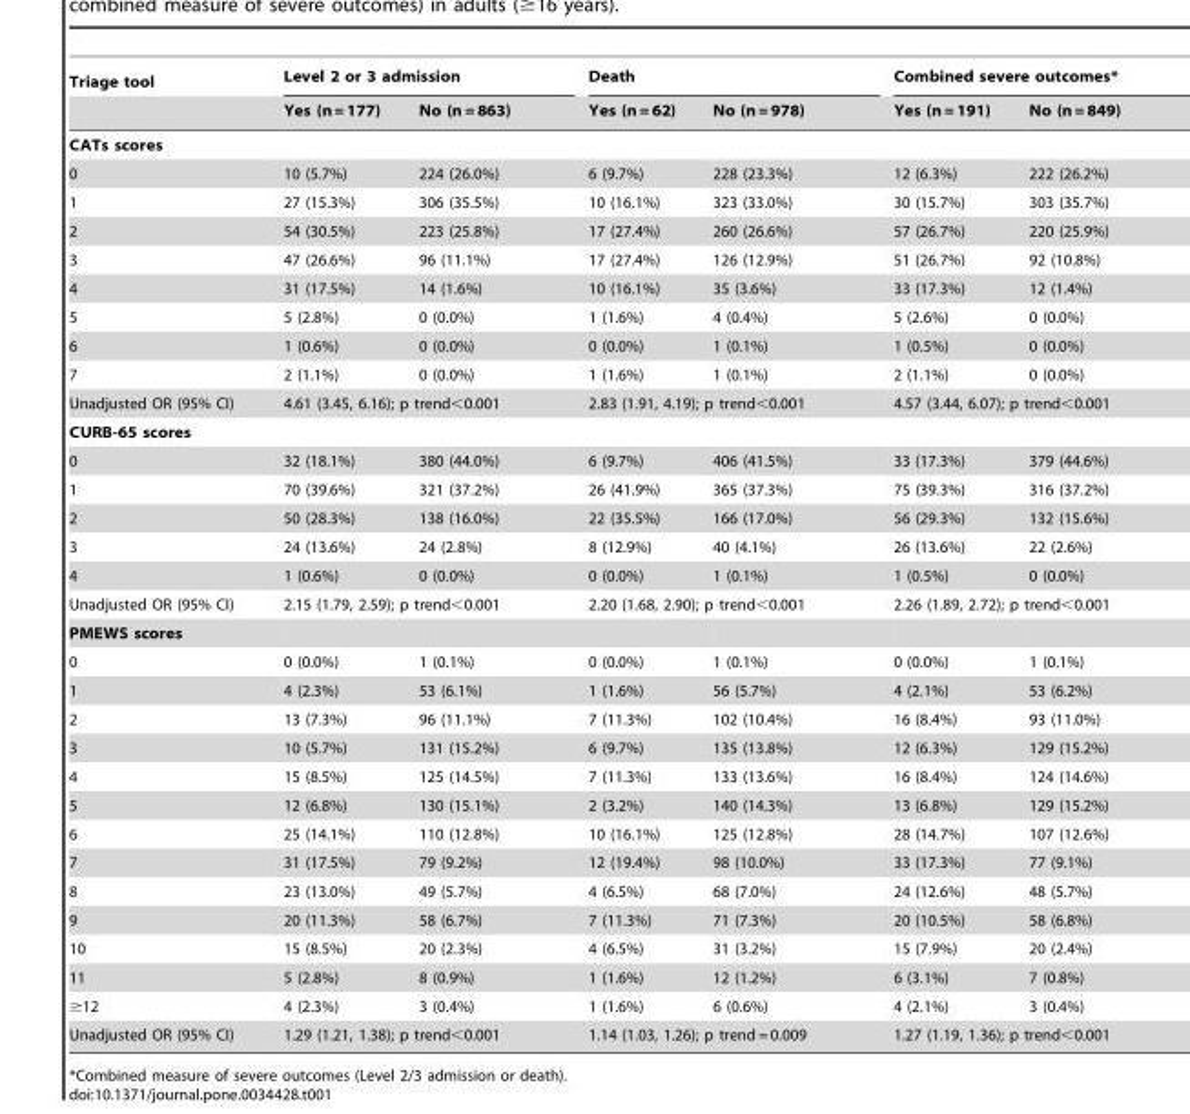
<table><thead><tr><td rowspan="2">Triage tool</td><td colspan="2">Level 2 or 3 admission</td><td colspan="2">Death</td><td colspan="2">Combined severe outcomes*</td></tr><tr><td>Yes (n = 177)</td><td>No (n = 863)</td><td>Yes (n = 62)</td><td>No (n = 978)</td><td>Yes (n = 191)</td><td>No (n = 849)</td></tr></thead><tbody><tr><td colspan="7">CATs scores</td></tr><tr><td>0</td><td>10 (5.7%)</td><td>224 (26.0%)</td><td>6 (9.7%)</td><td>228 (23.3%)</td><td>12 (6.3%)</td><td>222 (26.2%)</td></tr><tr><td>1</td><td>27 (15.3%)</td><td>306 (35.5%)</td><td>10 (16.1%)</td><td>323 (33.0%)</td><td>30 (15.7%)</td><td>303 (35.7%)</td></tr><tr><td>2</td><td>54 (30.5%)</td><td>223 (25.8%)</td><td>17 (27.4%)</td><td>260 (26.6%)</td><td>57 (26.7%)</td><td>220 (25.9%)</td></tr><tr><td>3</td><td>47 (26.6%)</td><td>96 (11.1%)</td><td>17 (27.4%)</td><td>126 (12.9%)</td><td>51 (26.7%)</td><td>92 (10.8%)</td></tr><tr><td>4</td><td>31 (17.5%)</td><td>14 (1.6%)</td><td>10 (16.1%)</td><td>35 (3.6%)</td><td>33 (17.3%)</td><td>12 (1.4%)</td></tr><tr><td>5</td><td>5 (2.8%)</td><td>0 (0.0%)</td><td>1 (1.6%)</td><td>4 (0.4%)</td><td>5 (2.6%)</td><td>0 (0.0%)</td></tr><tr><td>6</td><td>1 (0.6%)</td><td>0 (0.0%)</td><td>0 (0.0%)</td><td>1 (0.1%)</td><td>1 (0.5%)</td><td>0 (0.0%)</td></tr><tr><td>7</td><td>2 (1.1%)</td><td>0 (0.0%)</td><td>1 (1.6%)</td><td>1 (0.1%)</td><td>2 (1.1%)</td><td>0 (0.0%)</td></tr><tr><td>Unadjusted OR (95% CI)</td><td colspan="2">4.61 (3.45, 6.16); p trend&lt;0.001</td><td colspan="2">2.83 (1.91, 4.19); p trend&lt;0.001</td><td colspan="2">4.57 (3.44, 6.07); p trend&lt;0.001</td></tr><tr><td colspan="7">CURB-65 scores</td></tr><tr><td>0</td><td>32 (18.1%)</td><td>380 (44.0%)</td><td>6 (9.7%)</td><td>406 (41.5%)</td><td>33 (17.3%)</td><td>379 (44.6%)</td></tr><tr><td>1</td><td>70 (39.6%)</td><td>321 (37.2%)</td><td>26 (41.9%)</td><td>365 (37.3%)</td><td>75 (39.3%)</td><td>316 (37.2%)</td></tr><tr><td>2</td><td>50 (28.3%)</td><td>138 (16.0%)</td><td>22 (35.5%)</td><td>166 (17.0%)</td><td>56 (29.3%)</td><td>132 (15.6%)</td></tr><tr><td>3</td><td>24 (13.6%)</td><td>24 (2.8%)</td><td>8 (12.9%)</td><td>40 (4.1%)</td><td>26 (13.6%)</td><td>22 (2.6%)</td></tr><tr><td>4</td><td>1 (0.6%)</td><td>0 (0.0%)</td><td>0 (0.0%)</td><td>1 (0.1%)</td><td>1 (0.5%)</td><td>0 (0.0%)</td></tr><tr><td>Unadjusted OR (95% CI)</td><td colspan="2">2.15 (1.79, 2.59); p trend&lt;0.001</td><td colspan="2">2.20 (1.68, 2.90); p trend&lt;0.001</td><td colspan="2">2.26 (1.89, 2.72); p trend&lt;0.001</td></tr><tr><td colspan="7">PMEWS scores</td></tr><tr><td>0</td><td>0 (0.0%)</td><td>1 (0.1%)</td><td>0 (0.0%)</td><td>1 (0.1%)</td><td>0 (0.0%)</td><td>1 (0.1%)</td></tr><tr><td>1</td><td>4 (2.3%)</td><td>53 (6.1%)</td><td>1 (1.6%)</td><td>56 (5.7%)</td><td>4 (2.1%)</td><td>53 (6.2%)</td></tr><tr><td>2</td><td>13 (7.3%)</td><td>96 (11.1%)</td><td>7 (11.3%)</td><td>102 (10.4%)</td><td>16 (8.4%)</td><td>93 (11.0%)</td></tr><tr><td>3</td><td>10 (5.7%)</td><td>131 (15.2%)</td><td>6 (9.7%)</td><td>135 (13.8%)</td><td>12 (6.3%)</td><td>129 (15.2%)</td></tr><tr><td>4</td><td>15 (8.5%)</td><td>125 (14.5%)</td><td>7 (11.3%)</td><td>133 (13.6%)</td><td>16 (8.4%)</td><td>124 (14.6%)</td></tr><tr><td>5</td><td>12 (6.8%)</td><td>130 (15.1%)</td><td>2 (3.2%)</td><td>140 (14.3%)</td><td>13 (6.8%)</td><td>129 (15.2%)</td></tr><tr><td>6</td><td>25 (14.1%)</td><td>110 (12.8%)</td><td>10 (16.1%)</td><td>125 (12.8%)</td><td>28 (14.7%)</td><td>107 (12.6%)</td></tr><tr><td>7</td><td>31 (17.5%)</td><td>79 (9.2%)</td><td>12 (19.4%)</td><td>98 (10.0%)</td><td>33 (17.3%)</td><td>77 (9.1%)</td></tr><tr><td>8</td><td>23 (13.0%)</td><td>49 (5.7%)</td><td>4 (6.5%)</td><td>68 (7.0%)</td><td>24 (12.6%)</td><td>48 (5.7%)</td></tr><tr><td>9</td><td>20 (11.3%)</td><td>58 (6.7%)</td><td>7 (11.3%)</td><td>71 (7.3%)</td><td>20 (10.5%)</td><td>58 (6.8%)</td></tr><tr><td>10</td><td>15 (8.5%)</td><td>20 (2.3%)</td><td>4 (6.5%)</td><td>31 (3.2%)</td><td>15 (7.9%)</td><td>20 (2.4%)</td></tr><tr><td>11</td><td>5 (2.8%)</td><td>8 (0.9%)</td><td>1 (1.6%)</td><td>12 (1.2%)</td><td>6 (3.1%)</td><td>7 (0.8%)</td></tr><tr><td>≥12</td><td>4 (2.3%)</td><td>3 (0.4%)</td><td>1 (1.6%)</td><td>6 (0.6%)</td><td>4 (2.1%)</td><td>3 (0.4%)</td></tr><tr><td>Unadjusted OR (95% CI)</td><td colspan="2">1.29 (1.21, 1.38); p trend&lt;0.001</td><td colspan="2">1.14 (1.03, 1.26); p trend = 0.009</td><td colspan="2">1.27 (1.19, 1.36); p trend&lt;0.001</td></tr></tbody></table>